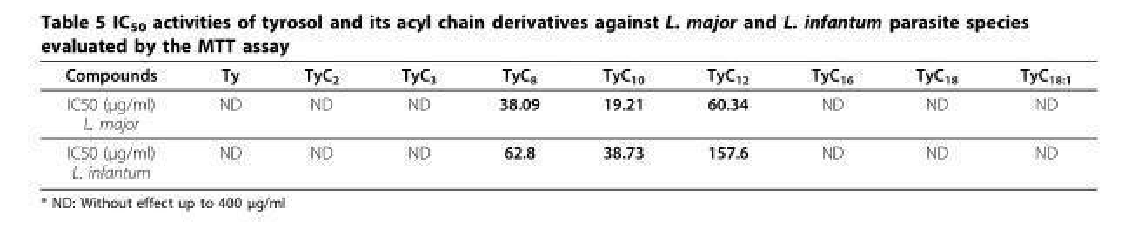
<table><thead><tr><td>Compounds</td><td>Ty</td><td>TyC<sub>2</sub></td><td>TyC<sub>3</sub></td><td>TyC<sub>8</sub></td><td>TyC<sub>10</sub></td><td>TyC<sub>12</sub></td><td>TyC<sub>16</sub></td><td>TyC<sub>18</sub></td><td>TyC<sub>18:1</sub></td></tr></thead><tbody><tr><td>IC50 (μg/ml) L. major</td><td>ND</td><td>ND</td><td>ND</td><td>38.09</td><td>19.21</td><td>60.34</td><td>ND</td><td>ND</td><td>ND</td></tr><tr><td>IC50 (μg/ml) L. infantum</td><td>ND</td><td>ND</td><td>ND</td><td>62.8</td><td>38.73</td><td>157.6</td><td>ND</td><td>ND</td><td>ND</td></tr></tbody></table>